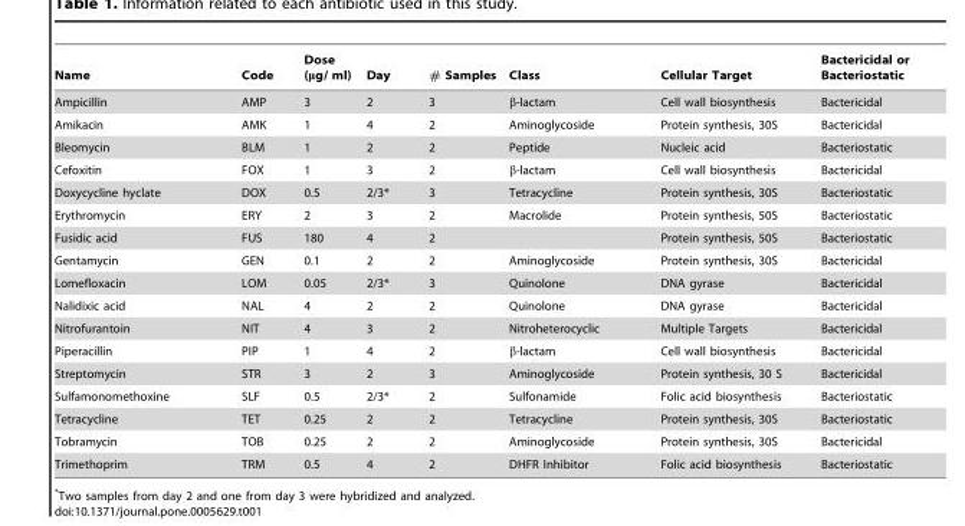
<table><thead><tr><td>Name</td><td>Code</td><td>Dose (μg/ ml)</td><td>Day</td><td># Samples</td><td>Class</td><td>Cellular Target</td><td>Bactericidal or Bacteriostatic</td></tr></thead><tbody><tr><td>Ampicillin</td><td>AMP</td><td>3</td><td>2</td><td>3</td><td>β-lactam</td><td>Cell wall biosynthesis</td><td>Bactericidal</td></tr><tr><td>Amikacin</td><td>AMK</td><td>1</td><td>4</td><td>2</td><td>Aminoglycoside</td><td>Protein synthesis, 30S</td><td>Bactericidal</td></tr><tr><td>Bleomycin</td><td>BLM</td><td>1</td><td>2</td><td>2</td><td>Peptide</td><td>Nucleic acid</td><td>Bacteriostatic</td></tr><tr><td>Cefoxitin</td><td>FOX</td><td>1</td><td>3</td><td>2</td><td>β-lactam</td><td>Cell wall biosynthesis</td><td>Bactericidal</td></tr><tr><td>Doxycycline hyclate</td><td>DOX</td><td>0.5</td><td>2/3*</td><td>3</td><td>Tetracycline</td><td>Protein synthesis, 30S</td><td>Bacteriostatic</td></tr><tr><td>Erythromycin</td><td>ERY</td><td>2</td><td>3</td><td>2</td><td>Macrolide</td><td>Protein synthesis, 50S</td><td>Bacteriostatic</td></tr><tr><td>Fusidic acid</td><td>FUS</td><td>180</td><td>4</td><td>2</td><td></td><td>Protein synthesis, 50S</td><td>Bacteriostatic</td></tr><tr><td>Gentamycin</td><td>GEN</td><td>0.1</td><td>2</td><td>2</td><td>Aminoglycoside</td><td>Protein synthesis, 30S</td><td>Bactericidal</td></tr><tr><td>Lomefloxacin</td><td>LOM</td><td>0.05</td><td>2/3*</td><td>3</td><td>Quinolone</td><td>DNA gyrase</td><td>Bactericidal</td></tr><tr><td>Nalidixic acid</td><td>NAL</td><td>4</td><td>2</td><td>2</td><td>Quinolone</td><td>DNA gyrase</td><td>Bactericidal</td></tr><tr><td>Nitrofurantoin</td><td>NIT</td><td>4</td><td>3</td><td>2</td><td>Nitroheterocyclic</td><td>Multiple Targets</td><td>Bactericidal</td></tr><tr><td>Piperacillin</td><td>PIP</td><td>1</td><td>4</td><td>2</td><td>β-lactam</td><td>Cell wall biosynthesis</td><td>Bactericidal</td></tr><tr><td>Streptomycin</td><td>STR</td><td>3</td><td>2</td><td>3</td><td>Aminoglycoside</td><td>Protein synthesis, 30 S</td><td>Bactericidal</td></tr><tr><td>Sulfamonomethoxine</td><td>SLF</td><td>0.5</td><td>2/3*</td><td>2</td><td>Sulfonamide</td><td>Folic acid biosynthesis</td><td>Bacteriostatic</td></tr><tr><td>Tetracycline</td><td>TET</td><td>0.25</td><td>2</td><td>2</td><td>Tetracycline</td><td>Protein synthesis, 30S</td><td>Bacteriostatic</td></tr><tr><td>Tobramycin</td><td>TOB</td><td>0.25</td><td>2</td><td>2</td><td>Aminoglycoside</td><td>Protein synthesis, 30S</td><td>Bactericidal</td></tr><tr><td>Trimethoprim</td><td>TRM</td><td>0.5</td><td>4</td><td>2</td><td>DHFR Inhibitor</td><td>Folic acid biosynthesis</td><td>Bacteriostatic</td></tr></tbody></table>